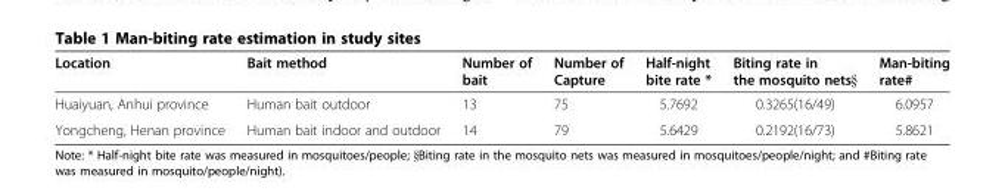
<table><thead><tr><td>Location</td><td>Bait method</td><td>Number of bait</td><td>Number of Capture</td><td>Half-night bite rate *</td><td>Biting rate in the mosquito nets§</td><td>Man-biting rate#</td></tr></thead><tbody><tr><td>Huaiyuan, Anhui province</td><td>Human bait outdoor</td><td>13</td><td>75</td><td>5.7692</td><td>0.3265(16/49)</td><td>6.0957</td></tr><tr><td>Yongcheng, Henan province</td><td>Human bait indoor and outdoor</td><td>14</td><td>79</td><td>5.6429</td><td>0.2192(16/73)</td><td>5.8621</td></tr></tbody></table>